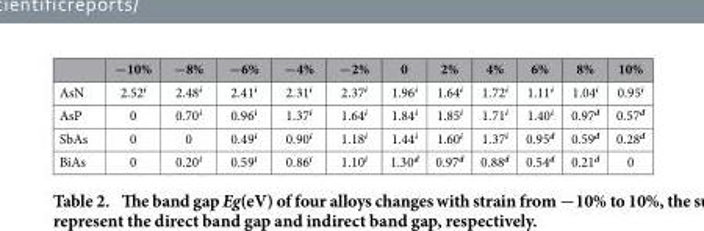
<table><thead><tr><td></td><td>−10%</td><td>−8%</td><td>−6%</td><td>−4%</td><td>−2%</td><td>0</td><td>2%</td><td>4%</td><td>6%</td><td>8%</td><td>10%</td></tr></thead><tbody><tr><td>AsN</td><td>2.52<sup>i</sup></td><td>2.48<sup>i</sup></td><td>2.41<sup>i</sup></td><td>2.31<sup>i</sup></td><td>2.37<sup>i</sup></td><td>1.96<sup>i</sup></td><td>1.64<sup>i</sup></td><td>1.72<sup>i</sup></td><td>1.11<sup>i</sup></td><td>1.04<sup>i</sup></td><td>0.95<sup>i</sup></td></tr><tr><td>AsP</td><td>0</td><td>0.70<sup>i</sup></td><td>0.96<sup>i</sup></td><td>1.37<sup>i</sup></td><td>1.64<sup>i</sup></td><td>1.84<sup>i</sup></td><td>1.85<sup>i</sup></td><td>1.71<sup>i</sup></td><td>1.40<sup>i</sup></td><td>0.97<sup>d</sup></td><td>0.57<sup>d</sup></td></tr><tr><td>SbAs</td><td>0</td><td>0</td><td>0.49<sup>i</sup></td><td>0.90<sup>i</sup></td><td>1.18<sup>i</sup></td><td>1.44<sup>i</sup></td><td>1.60<sup>i</sup></td><td>1.37<sup>i</sup></td><td>0.95<sup>d</sup></td><td>0.59<sup>d</sup></td><td>0.28<sup>d</sup></td></tr><tr><td>BiAs</td><td>0</td><td>0.20<sup>i</sup></td><td>0.59<sup>i</sup></td><td>0.86<sup>i</sup></td><td>1.10<sup>i</sup></td><td>1.30<sup>d</sup></td><td>0.97<sup>d</sup></td><td>0.88<sup>d</sup></td><td>0.54<sup>d</sup></td><td>0.21<sup>d</sup></td><td>0</td></tr></tbody></table>